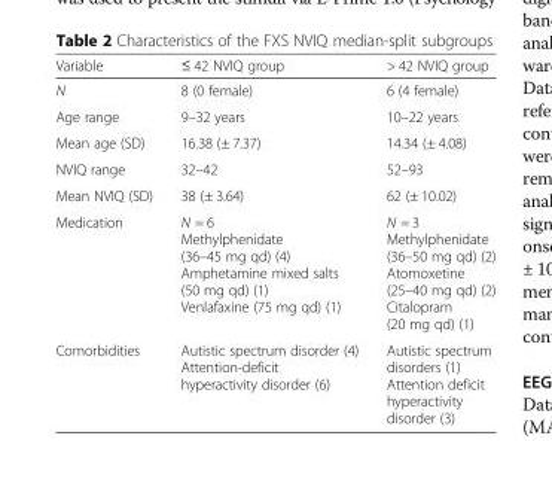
<table><thead><tr><td>Variable</td><td>≤ 42 NVIQ group</td><td>&gt; 42 NVIQ group</td></tr></thead><tbody><tr><td>N</td><td>8 (0 female)</td><td>6 (4 female)</td></tr><tr><td>Age range</td><td>9–32 years</td><td>10–22 years</td></tr><tr><td>Mean age (SD)</td><td>16.38 (± 7.37)</td><td>14.34 (± 4.08)</td></tr><tr><td>NVIQ range</td><td>32–42</td><td>52–93</td></tr><tr><td>Mean NVIQ (SD)</td><td>38 (± 3.64)</td><td>62 (± 10.02)</td></tr><tr><td>Medication</td><td>N = 6 Methylphenidate (36–45 mg qd) (4) Amphetamine mixed salts (50 mg qd) (1) Venlafaxine (75 mg qd) (1)</td><td>N = 3 Methylphenidate (36–50 mg qd) (2) Atomoxetine (25–40 mg qd) (2) Citalopram (20 mg qd) (1)</td></tr><tr><td>Comorbidities</td><td>Autistic spectrum disorder (4) Attention-deficit hyperactivity disorder (6)</td><td>Autistic spectrum disorders (1) Attention deficit hyperactivity disorder (3)</td></tr></tbody></table>